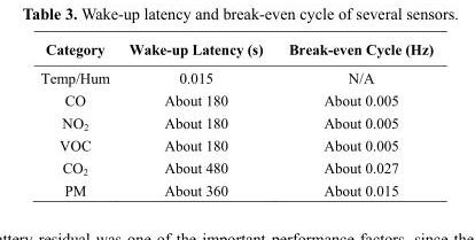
<table><thead><tr><td>Category</td><td>Wake-up Latency (s)</td><td>Break-even Cycle (Hz)</td></tr></thead><tbody><tr><td>Temp/Hum</td><td>0.015</td><td>N/A</td></tr><tr><td>CO</td><td>About 180</td><td>About 0.005</td></tr><tr><td>NO<sub>2</sub></td><td>About 180</td><td>About 0.005</td></tr><tr><td>VOC</td><td>About 180</td><td>About 0.005</td></tr><tr><td>CO<sub>2</sub></td><td>About 480</td><td>About 0.027</td></tr><tr><td>PM</td><td>About 360</td><td>About 0.015</td></tr></tbody></table>